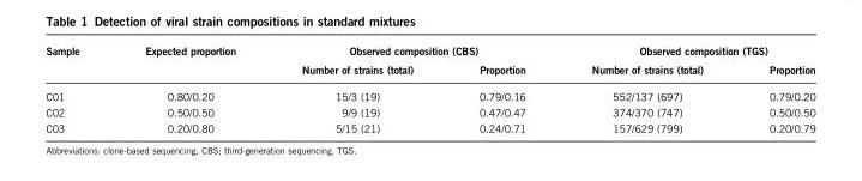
<table><thead><tr><td rowspan="2">Sample</td><td rowspan="2">Expected proportion</td><td colspan="2">Observed composition (CBS)</td><td colspan="2">Observed composition (TGS)</td></tr><tr><td>Number of strains (total)</td><td>Proportion</td><td>Number of strains (total)</td><td>Proportion</td></tr></thead><tbody><tr><td>C01</td><td>0.80/0.20</td><td>15/3 (19)</td><td>0.79/0.16</td><td>552/137 (697)</td><td>0.79/0.20</td></tr><tr><td>C02</td><td>0.50/0.50</td><td>9/9 (19)</td><td>0.47/0.47</td><td>374/370 (747)</td><td>0.50/0.50</td></tr><tr><td>C03</td><td>0.20/0.80</td><td>5/15 (21)</td><td>0.24/0.71</td><td>157/629 (799)</td><td>0.20/0.79</td></tr></tbody></table>